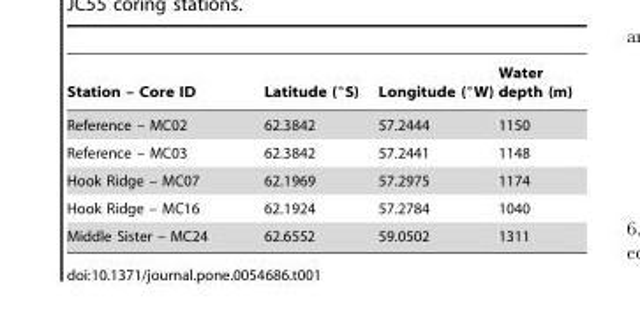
<table><thead><tr><td>Station – Core ID</td><td>Latitude (°S)</td><td>Longitude (°W)</td><td>Water depth (m)</td></tr></thead><tbody><tr><td>Reference – MC02</td><td>62.3842</td><td>57.2444</td><td>1150</td></tr><tr><td>Reference – MC03</td><td>62.3842</td><td>57.2441</td><td>1148</td></tr><tr><td>Hook Ridge – MC07</td><td>62.1969</td><td>57.2975</td><td>1174</td></tr><tr><td>Hook Ridge – MC16</td><td>62.1924</td><td>57.2784</td><td>1040</td></tr><tr><td>Middle Sister – MC24</td><td>62.6552</td><td>59.0502</td><td>1311</td></tr></tbody></table>